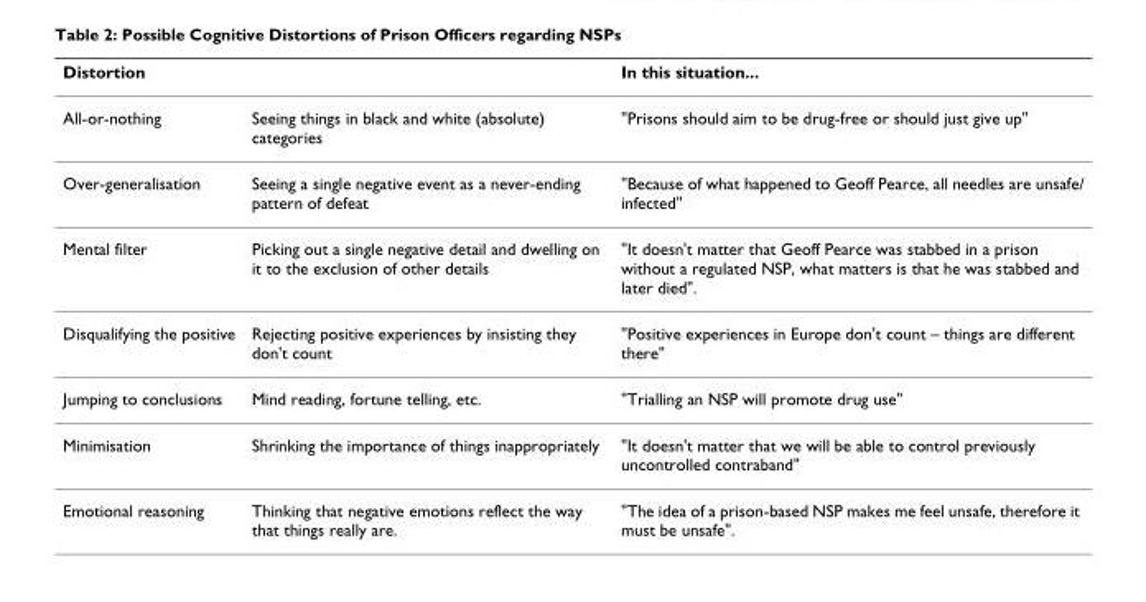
<table><thead><tr><td>Distortion</td><td></td><td>In this situation...</td></tr></thead><tbody><tr><td>All-or-nothing</td><td>Seeing things in black and white (absolute) categories</td><td>&quot;Prisons should aim to be drug-free or should just give up&quot;</td></tr><tr><td>Over-generalisation</td><td>Seeing a single negative event as a never-ending pattern of defeat</td><td>&quot;Because of what happened to Geoff Pearce, all needles are unsafe/ infected&quot;</td></tr><tr><td>Mental filter</td><td>Picking out a single negative detail and dwelling on it to the exclusion of other details</td><td>&quot;It doesn&#x27;t matter that Geoff Pearce was stabbed in a prison without a regulated NSP, what matters is that he was stabbed and later died&quot;.</td></tr><tr><td>Disqualifying the positive</td><td>Rejecting positive experiences by insisting they don&#x27;t count</td><td>&quot;Positive experiences in Europe don&#x27;t count – things are different there&quot;</td></tr><tr><td>Jumping to conclusions</td><td>Mind reading, fortune telling, etc.</td><td>&quot;Trialling an NSP will promote drug use&quot;</td></tr><tr><td>Minimisation</td><td>Shrinking the importance of things inappropriately</td><td>&quot;It doesn&#x27;t matter that we will be able to control previously uncontrolled contraband&quot;</td></tr><tr><td>Emotional reasoning</td><td>Thinking that negative emotions reflect the way that things really are.</td><td>&quot;The idea of a prison-based NSP makes me feel unsafe, therefore it must be unsafe&quot;.</td></tr></tbody></table>